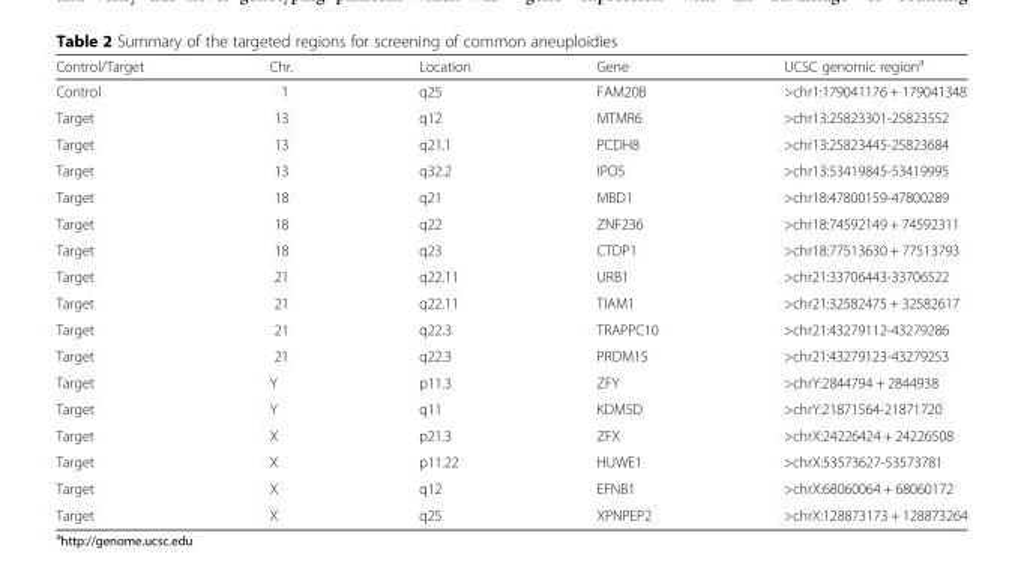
<table><thead><tr><td>Control/Target</td><td>Chr.</td><td>Location</td><td>Gene</td><td>UCSC genomic region<sup>a</sup></td></tr></thead><tbody><tr><td>Control</td><td>1</td><td>q25</td><td>FAM20B</td><td>&gt;chr1:179041176 + 179041348</td></tr><tr><td>Target</td><td>13</td><td>q12</td><td>MTMR6</td><td>&gt;chr13:25823301-25823552</td></tr><tr><td>Target</td><td>13</td><td>q21.1</td><td>PCDH8</td><td>&gt;chr13:25823445-25823684</td></tr><tr><td>Target</td><td>13</td><td>q32.2</td><td>IPO5</td><td>&gt;chr13:53419845-53419995</td></tr><tr><td>Target</td><td>18</td><td>q21</td><td>MBD1</td><td>&gt;chr18:47800159-47800289</td></tr><tr><td>Target</td><td>18</td><td>q22</td><td>ZNF236</td><td>&gt;chr18:74592149 + 74592311</td></tr><tr><td>Target</td><td>18</td><td>q23</td><td>CTDP1</td><td>&gt;chr18:77513630 + 77513793</td></tr><tr><td>Target</td><td>21</td><td>q22.11</td><td>URB1</td><td>&gt;chr21:33706443-33706522</td></tr><tr><td>Target</td><td>21</td><td>q22.11</td><td>TIAM1</td><td>&gt;chr21:32582475 + 32582617</td></tr><tr><td>Target</td><td>21</td><td>q22.3</td><td>TRAPPC10</td><td>&gt;chr21:43279112-43279286</td></tr><tr><td>Target</td><td>21</td><td>q22.3</td><td>PRDM15</td><td>&gt;chr21:43279123-43279253</td></tr><tr><td>Target</td><td>Y</td><td>p11.3</td><td>ZFY</td><td>&gt;chrY:2844794 + 2844938</td></tr><tr><td>Target</td><td>Y</td><td>q11</td><td>KDM5D</td><td>&gt;chrY:21871564-21871720</td></tr><tr><td>Target</td><td>X</td><td>p21.3</td><td>ZFX</td><td>&gt;chrX:24226424 + 24226508</td></tr><tr><td>Target</td><td>X</td><td>p11.22</td><td>HUWE1</td><td>&gt;chrX:53573627-53573781</td></tr><tr><td>Target</td><td>X</td><td>q12</td><td>EFNB1</td><td>&gt;chrX:68060064 + 68060172</td></tr><tr><td>Target</td><td>X</td><td>q25</td><td>XPNPEP2</td><td>&gt;chrX:128873173 + 128873264</td></tr></tbody></table>